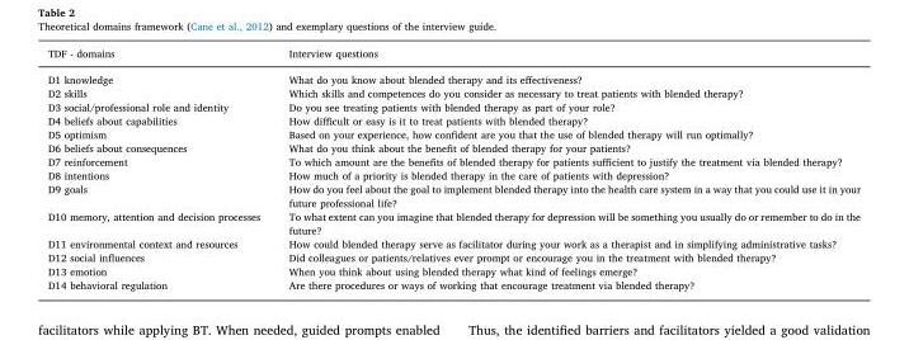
<table><thead><tr><td>TDF - domains</td><td>Interview questions</td></tr></thead><tbody><tr><td>D1 knowledge</td><td>What do you know about blended therapy and its effectiveness?</td></tr><tr><td>D2 skills</td><td>Which skills and competences do you consider as necessary to treat patients with blended therapy?</td></tr><tr><td>D3 social/professional role and identity</td><td>Do you see treating patients with blended therapy as part of your role?</td></tr><tr><td>D4 beliefs about capabilities</td><td>How difficult or easy is it to treat patients with blended therapy?</td></tr><tr><td>D5 optimism</td><td>Based on your experience, how confident are you that the use of blended therapy will run optimally?</td></tr><tr><td>D6 beliefs about consequences</td><td>What do you think about the benefit of blended therapy for your patients?</td></tr><tr><td>D7 reinforcement</td><td>To which amount are the benefits of blended therapy for patients sufficient to justify the treatment via blended therapy?</td></tr><tr><td>D8 intentions</td><td>How much of a priority is blended therapy in the care of patients with depression?</td></tr><tr><td>D9 goals</td><td>How do you feel about the goal to implement blended therapy into the health care system in a way that you could use it in your future professional life?</td></tr><tr><td>D10 memory, attention and decision processes</td><td>To what extent can you imagine that blended therapy for depression will be something you usually do or remember to do in the future?</td></tr><tr><td>D11 environmental context and resources</td><td>How could blended therapy serve as facilitator during your work as a therapist and in simplifying administrative tasks?</td></tr><tr><td>D12 social influences</td><td>Did colleagues or patients/relatives ever prompt or encourage you in the treatment with blended therapy?</td></tr><tr><td>D13 emotion</td><td>When you think about using blended therapy what kind of feelings emerge?</td></tr><tr><td>D14 behavioral regulation</td><td>Are there procedures or ways of working that encourage treatment via blended therapy?</td></tr></tbody></table>